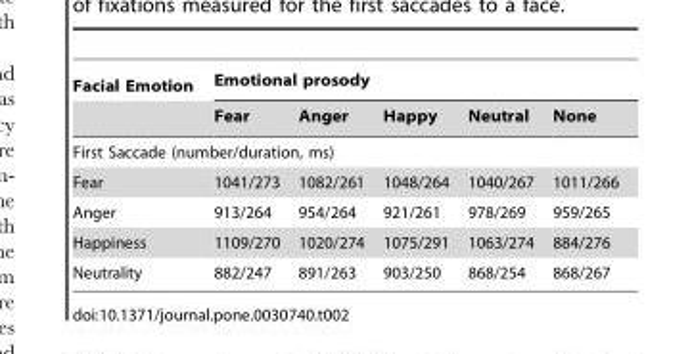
<table><thead><tr><td rowspan="2">Facial Emotion</td><td colspan="5">Emotional prosody</td></tr><tr><td>Fear</td><td>Anger</td><td>Happy</td><td>Neutral</td><td>None</td></tr></thead><tbody><tr><td colspan="6">First Saccade (number/duration, ms)</td></tr><tr><td>Fear</td><td>1041/273</td><td>1082/261</td><td>1048/264</td><td>1040/267</td><td>1011/266</td></tr><tr><td>Anger</td><td>913/264</td><td>954/264</td><td>921/261</td><td>978/269</td><td>959/265</td></tr><tr><td>Happiness</td><td>1109/270</td><td>1020/274</td><td>1075/291</td><td>1063/274</td><td>884/276</td></tr><tr><td>Neutrality</td><td>882/247</td><td>891/263</td><td>903/250</td><td>868/254</td><td>868/267</td></tr></tbody></table>